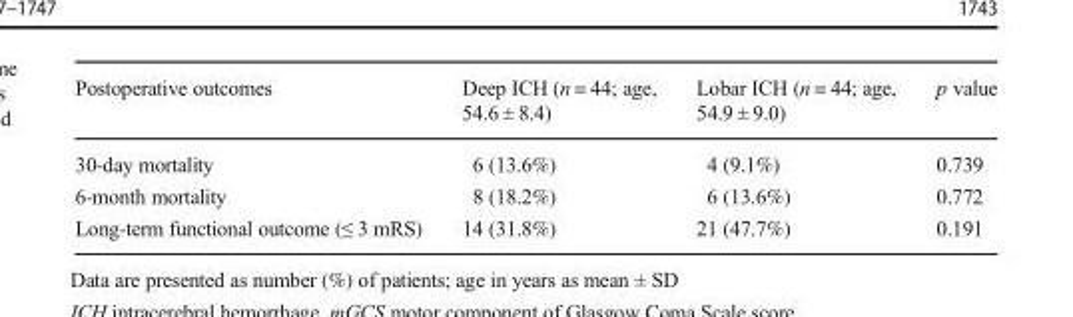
<table><thead><tr><td>Postoperative outcomes</td><td>Deep ICH (n = 44; age, 54.6 ± 8.4)</td><td>Lobar ICH (n = 44; age, 54.9 ± 9.0)</td><td>p value</td></tr></thead><tbody><tr><td>30-day mortality</td><td>6 (13.6%)</td><td>4 (9.1%)</td><td>0.739</td></tr><tr><td>6-month mortality</td><td>8 (18.2%)</td><td>6 (13.6%)</td><td>0.772</td></tr><tr><td>Long-term functional outcome (≤ 3 mRS)</td><td>14 (31.8%)</td><td>21 (47.7%)</td><td>0.191</td></tr></tbody></table>